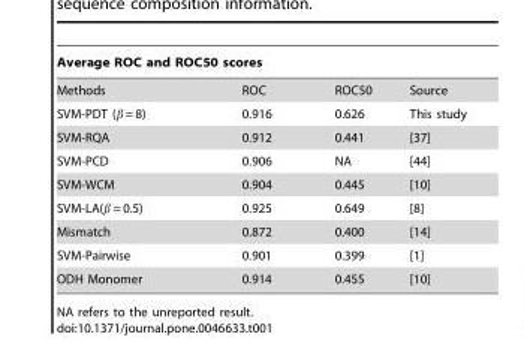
<table><thead><tr><td colspan="4">Average ROC and ROC50 scores</td></tr><tr><td>Methods</td><td>ROC</td><td>ROC50</td><td>Source</td></tr></thead><tbody><tr><td>SVM-PDT (β = 8)</td><td>0.916</td><td>0.626</td><td>This study</td></tr><tr><td>SVM-RQA</td><td>0.912</td><td>0.441</td><td>[37]</td></tr><tr><td>SVM-PCD</td><td>0.906</td><td>NA</td><td>[44]</td></tr><tr><td>SVM-WCM</td><td>0.904</td><td>0.445</td><td>[10]</td></tr><tr><td>SVM-LA(β = 0.5)</td><td>0.925</td><td>0.649</td><td>[8]</td></tr><tr><td>Mismatch</td><td>0.872</td><td>0.400</td><td>[14]</td></tr><tr><td>SVM-Pairwise</td><td>0.901</td><td>0.399</td><td>[1]</td></tr><tr><td>ODH Monomer</td><td>0.914</td><td>0.455</td><td>[10]</td></tr></tbody></table>